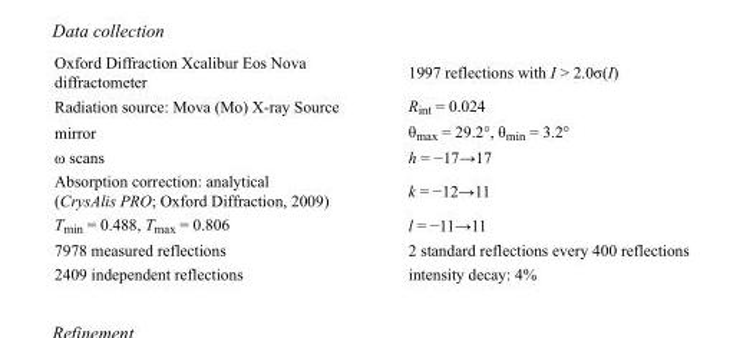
<table><tbody><tr><td>Oxford Diffraction Xcalibur Eos Nova diffractometer</td><td>1997 reflections with I &gt; 2.0σ(I)</td></tr><tr><td>Radiation source: Mova (Mo) X-ray Source</td><td>R<sub>int</sub> = 0.024</td></tr><tr><td>mirror</td><td>θ<sub>max</sub> = 29.2°, θ<sub>min</sub> = 3.2°</td></tr><tr><td>ω scans</td><td>h = −17→17</td></tr><tr><td>Absorption correction: analytical (CrysAlis PRO; Oxford Diffraction, 2009)</td><td>k = −12→11</td></tr><tr><td>T<sub>min</sub> = 0.488, T<sub>max</sub> = 0.806</td><td>l = −11→11</td></tr><tr><td>7978 measured reflections</td><td>2 standard reflections every 400 reflections</td></tr><tr><td>2409 independent reflections</td><td>intensity decay: 4%</td></tr></tbody></table>